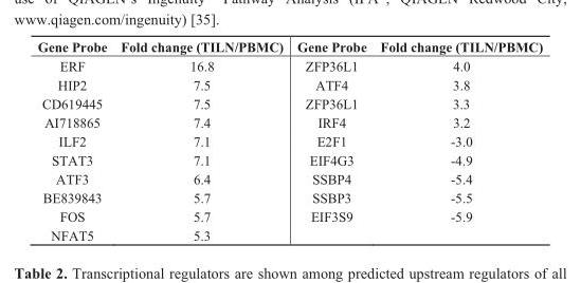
<table><thead><tr><td>Gene Probe</td><td>Fold change (TILN/PBMC)</td><td>Gene Probe</td><td>Fold change (TILN/PBMC)</td></tr></thead><tbody><tr><td>ERF</td><td>16.8</td><td>ZFP36L1</td><td>4.0</td></tr><tr><td>HIP2</td><td>7.5</td><td>ATF4</td><td>3.8</td></tr><tr><td>CD619445</td><td>7.5</td><td>ZFP36L1</td><td>3.3</td></tr><tr><td>AI718865</td><td>7.4</td><td>IRF4</td><td>3.2</td></tr><tr><td>ILF2</td><td>7.1</td><td>E2F1</td><td>-3.0</td></tr><tr><td>STAT3</td><td>7.1</td><td>EIF4G3</td><td>-4.9</td></tr><tr><td>ATF3</td><td>6.4</td><td>SSBP4</td><td>-5.4</td></tr><tr><td>BE839843</td><td>5.7</td><td>SSBP3</td><td>-5.5</td></tr><tr><td>FOS</td><td>5.7</td><td>EIF3S9</td><td>-5.9</td></tr><tr><td>NFAT5</td><td>5.3</td><td></td><td></td></tr></tbody></table>